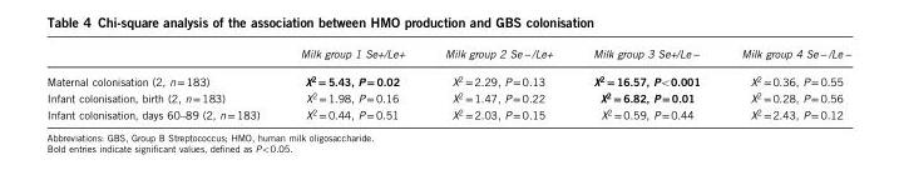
<table><thead><tr><td></td><td>Milk group 1 Se+/Le+</td><td>Milk group 2 Se− /Le+</td><td>Milk group 3 Se+/Le −</td><td>Milk group 4 Se− /Le −</td></tr></thead><tbody><tr><td>Maternal colonisation (2, n = 183)</td><td>X<sup>2</sup> = 5.43, P = 0.02</td><td>X<sup>2</sup> = 2.29, P = 0.13</td><td>X<sup>2</sup> = 16.57, P&lt;0.001</td><td>X<sup>2</sup> = 0.36, P = 0.55</td></tr><tr><td>Infant colonisation, birth (2, n = 183)</td><td>X<sup>2</sup> = 1.98, P = 0.16</td><td>X<sup>2</sup> = 1.47, P = 0.22</td><td>X<sup>2</sup> = 6.82, P = 0.01</td><td>X<sup>2</sup> = 0.28, P = 0.56</td></tr><tr><td>Infant colonisation, days 60–89 (2, n = 183)</td><td>X<sup>2</sup> = 0.44, P = 0.51</td><td>X<sup>2</sup> = 2.03, P = 0.15</td><td>X<sup>2</sup> = 0.59, P = 0.44</td><td>X<sup>2</sup> = 2.43, P = 0.12</td></tr></tbody></table>